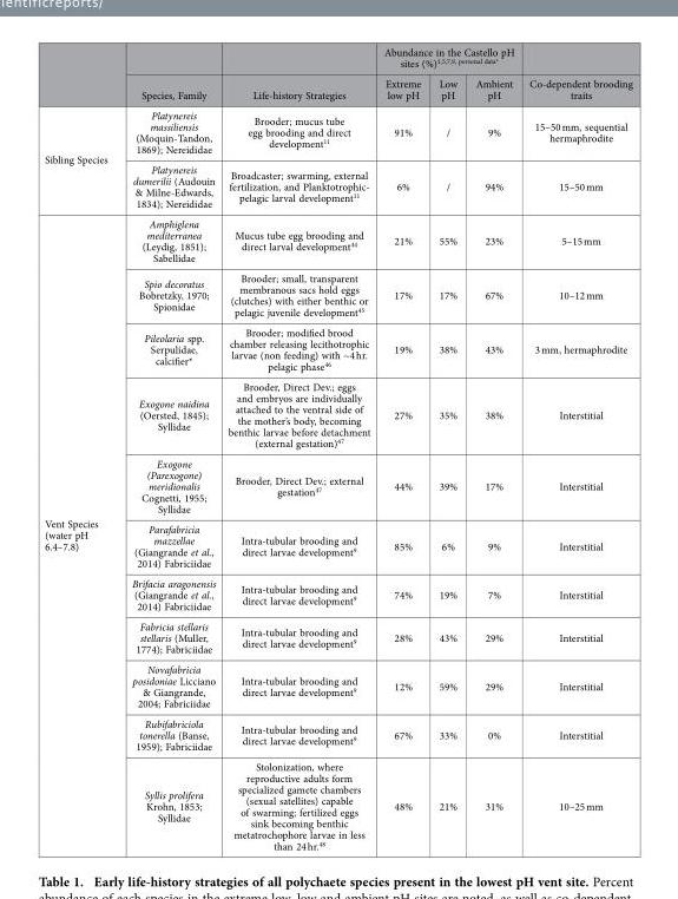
<table><thead><tr><td rowspan="2"></td><td rowspan="2">Species, Family</td><td rowspan="2">Life-history Strategies</td><td colspan="3">Abundance in the Castello pH sites (%)<sup>1</sup>,<sup>5</sup>,<sup>7</sup>,<sup>9, personal data*</sup></td><td rowspan="2">Co-dependent brooding traits</td></tr><tr><td>Extreme low pH</td><td>Low pH</td><td>Ambient pH</td></tr></thead><tbody><tr><td rowspan="2">Sibling Species</td><td>Platynereis massiliensis (Moquin-Tandon, 1869); Nereididae</td><td>Brooder; mucus tube egg brooding and direct development<sup>11</sup></td><td>91%</td><td>/</td><td>9%</td><td>15–50 mm, sequential hermaphrodite</td></tr><tr><td>Platynereis dumerilii (Audouin &amp; Milne-Edwards, 1834); Nereididae</td><td>Broadcaster; swarming, external fertilization, and Planktotrophic- pelagic larval development<sup>11</sup></td><td>6%</td><td>/</td><td>94%</td><td>15–50 mm</td></tr><tr><td rowspan="11">Vent Species (water pH 6.4–7.8)</td><td>Amphiglena mediterranea (Leydig, 1851); Sabellidae</td><td>Mucus tube egg brooding and direct larval development<sup>44</sup></td><td>21%</td><td>55%</td><td>23%</td><td>5–15 mm</td></tr><tr><td>Spio decoratus Bobretzky, 1970; Spionidae</td><td>Brooder; small, transparent membranous sacs hold eggs (clutches) with either benthic or pelagic juvenile development<sup>45</sup></td><td>17%</td><td>17%</td><td>67%</td><td>10–12 mm</td></tr><tr><td>Pileolaria spp. Serpulidae, calcifier*</td><td>Brooder; modified brood chamber releasing lecithotrophic larvae (non feeding) with ~4 hr. pelagic phase<sup>46</sup></td><td>19%</td><td>38%</td><td>43%</td><td>3 mm, hermaphrodite</td></tr><tr><td>Exogone naidina (Oersted, 1845); Syllidae</td><td>Brooder, Direct Dev.; eggs and embryos are individually attached to the ventral side of the mother’s body, becoming benthic larvae before detachment (external gestation)<sup>47</sup></td><td>27%</td><td>35%</td><td>38%</td><td>Interstitial</td></tr><tr><td>Exogone (Parexogone) meridionalis Cognetti, 1955; Syllidae</td><td>Brooder, Direct Dev.; external gestation<sup>47</sup></td><td>44%</td><td>39%</td><td>17%</td><td>Interstitial</td></tr><tr><td>Parafabricia mazzellae (Giangrande et al., 2014) Fabriciidae</td><td>Intra-tubular brooding and direct larvae development<sup>9</sup></td><td>85%</td><td>6%</td><td>9%</td><td>Interstitial</td></tr><tr><td>Brifacia aragonensis (Giangrande et al., 2014) Fabriciidae</td><td>Intra-tubular brooding and direct larvae development<sup>9</sup></td><td>74%</td><td>19%</td><td>7%</td><td>Interstitial</td></tr><tr><td>Fabricia stellaris stellaris (Muller, 1774); Fabriciidae</td><td>Intra-tubular brooding and direct larvae development<sup>9</sup></td><td>28%</td><td>43%</td><td>29%</td><td>Interstitial</td></tr><tr><td>Novafabricia posidoniae Licciano &amp; Giangrande, 2004; Fabriciidae</td><td>Intra-tubular brooding and direct larvae development<sup>9</sup></td><td>12%</td><td>59%</td><td>29%</td><td>Interstitial</td></tr><tr><td>Rubifabriciola tonerella (Banse, 1959); Fabriciidae</td><td>Intra-tubular brooding and direct larvae development<sup>9</sup></td><td>67%</td><td>33%</td><td>0%</td><td>Interstitial</td></tr><tr><td>Syllis prolifera Krohn, 1853; Syllidae</td><td>Stolonization, where reproductive adults form specialized gamete chambers (sexual satellites) capable of swarming; fertilized eggs sink becoming benthic metatrochophore larvae in less than 24 hr.<sup>48</sup></td><td>48%</td><td>21%</td><td>31%</td><td>10–25 mm</td></tr></tbody></table>